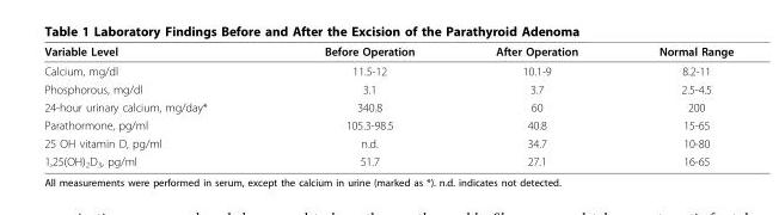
<table><thead><tr><td>Variable Level</td><td>Before Operation</td><td>After Operation</td><td>Normal Range</td></tr></thead><tbody><tr><td>Calcium, mg/dl</td><td>11.5-12</td><td>10.1-9</td><td>8.2-11</td></tr><tr><td>Phosphorous, mg/dl</td><td>3.1</td><td>3.7</td><td>2.5-4.5</td></tr><tr><td>24-hour urinary calcium, mg/day*</td><td>340.8</td><td>60</td><td>200</td></tr><tr><td>Parathormone, pg/ml</td><td>105.3-98.5</td><td>40.8</td><td>15-65</td></tr><tr><td>25 OH vitamin D, pg/ml</td><td>n.d.</td><td>34.7</td><td>10-80</td></tr><tr><td>1,25(OH)<sub>2</sub>D<sub>3</sub>, pg/ml</td><td>51.7</td><td>27.1</td><td>16-65</td></tr></tbody></table>